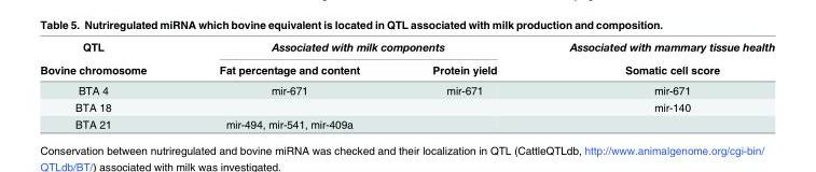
<table><thead><tr><td rowspan="2">QTL Bovine chromosome</td><td colspan="2">Associated with milk components</td><td rowspan="2">Associated with mammary tissue health Somatic cell score</td></tr><tr><td>Fat percentage and content</td><td>Protein yield</td></tr></thead><tbody><tr><td>BTA 4</td><td>mir-671</td><td>mir-671</td><td>mir-671</td></tr><tr><td>BTA 18</td><td></td><td></td><td>mir-140</td></tr><tr><td>BTA 21</td><td>mir-494, mir-541, mir-409a</td><td></td><td></td></tr></tbody></table>